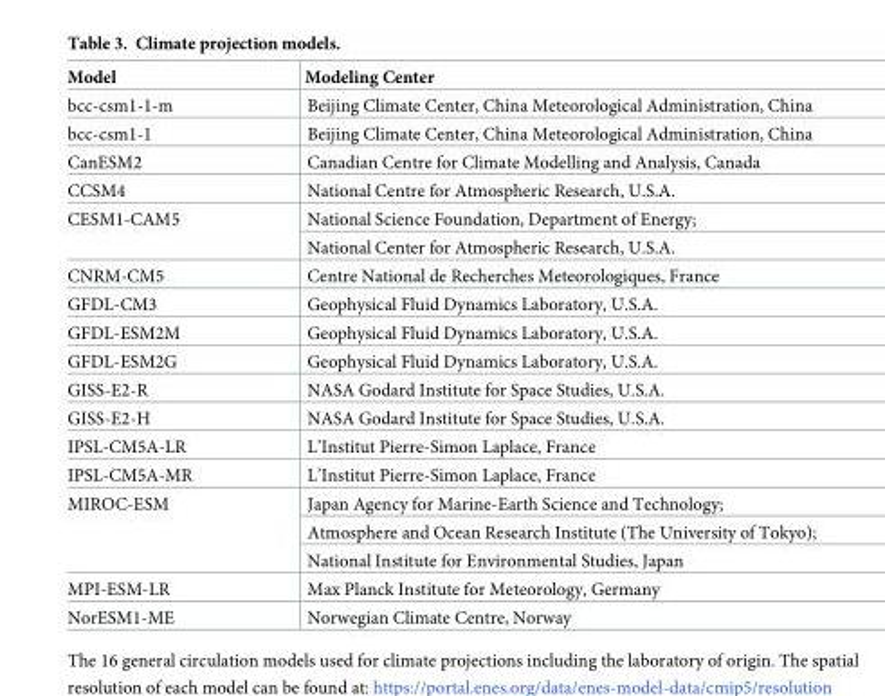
<table><thead><tr><td>Model</td><td>Modeling Center</td></tr></thead><tbody><tr><td>bcc-csm1-1-m</td><td>Beijing Climate Center, China Meteorological Administration, China</td></tr><tr><td>bcc-csm1-1</td><td>Beijing Climate Center, China Meteorological Administration, China</td></tr><tr><td>CanESM2</td><td>Canadian Centre for Climate Modelling and Analysis, Canada</td></tr><tr><td>CCSM4</td><td>National Centre for Atmospheric Research, U.S.A.</td></tr><tr><td rowspan="2">CESM1-CAM5</td><td>National Science Foundation, Department of Energy;</td></tr><tr><td>National Center for Atmospheric Research, U.S.A.</td></tr><tr><td>CNRM-CM5</td><td>Centre National de Recherches Meteorologiques, France</td></tr><tr><td>GFDL-CM3</td><td>Geophysical Fluid Dynamics Laboratory, U.S.A.</td></tr><tr><td>GFDL-ESM2M</td><td>Geophysical Fluid Dynamics Laboratory, U.S.A.</td></tr><tr><td>GFDL-ESM2G</td><td>Geophysical Fluid Dynamics Laboratory, U.S.A.</td></tr><tr><td>GISS-E2-R</td><td>NASA Godard Institute for Space Studies, U.S.A.</td></tr><tr><td>GISS-E2-H</td><td>NASA Godard Institute for Space Studies, U.S.A.</td></tr><tr><td>IPSL-CM5A-LR</td><td>L’Institut Pierre-Simon Laplace, France</td></tr><tr><td>IPSL-CM5A-MR</td><td>L’Institut Pierre-Simon Laplace, France</td></tr><tr><td rowspan="3">MIROC-ESM</td><td>Japan Agency for Marine-Earth Science and Technology;</td></tr><tr><td>Atmosphere and Ocean Research Institute (The University of Tokyo);</td></tr><tr><td>National Institute for Environmental Studies, Japan</td></tr><tr><td>MPI-ESM-LR</td><td>Max Planck Institute for Meteorology, Germany</td></tr><tr><td>NorESM1-ME</td><td>Norwegian Climate Centre, Norway</td></tr></tbody></table>